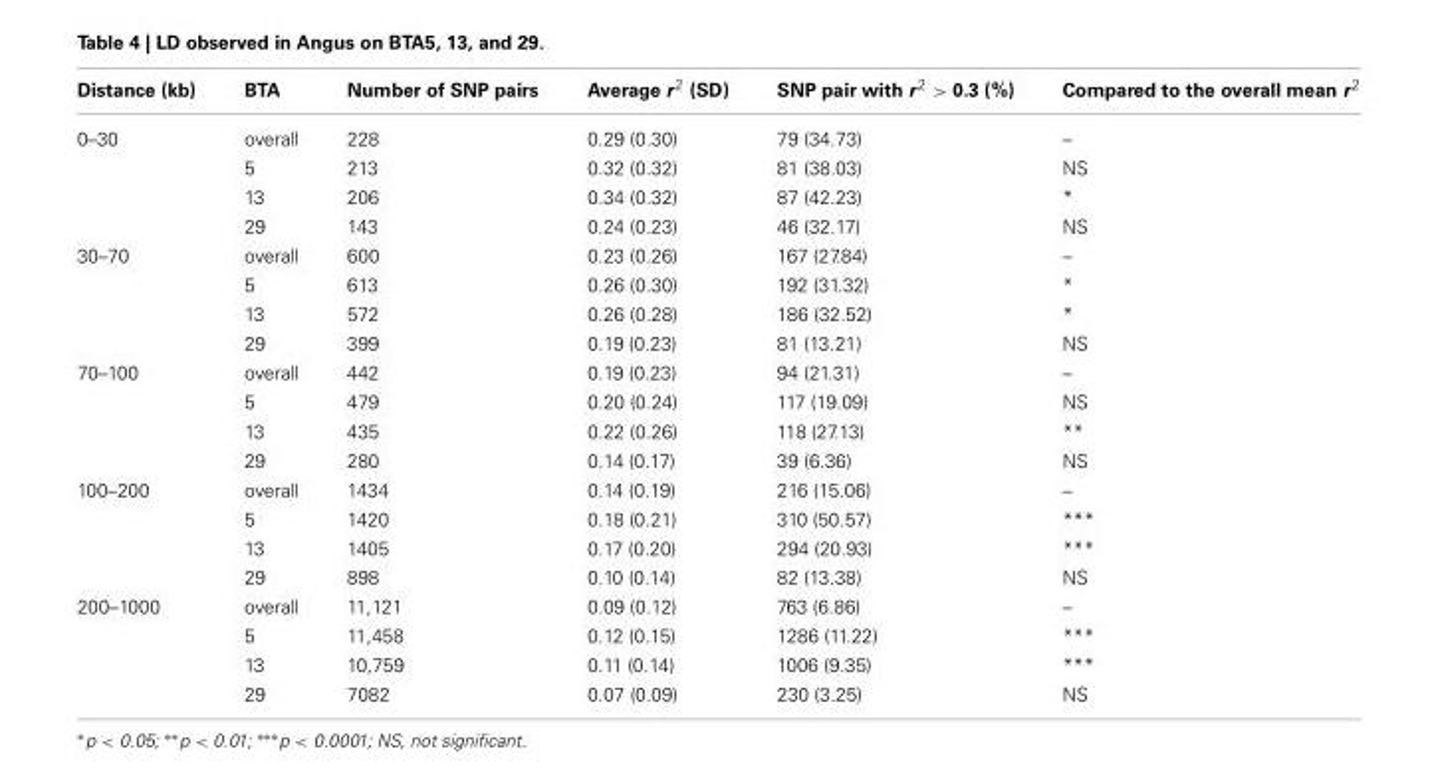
<table><thead><tr><td>Distance (kb)</td><td>BTA</td><td>Number of SNP pairs</td><td>Average r<sup>2</sup> (SD)</td><td>SNP pair with r<sup>2</sup> &gt; 0.3 (%)</td><td>Compared to the overall mean r<sup>2</sup></td></tr></thead><tbody><tr><td rowspan="4">0–30</td><td>overall</td><td>228</td><td>0.29 (0.30)</td><td>79 (34.73)</td><td>–</td></tr><tr><td>5</td><td>213</td><td>0.32 (0.32)</td><td>81 (38.03)</td><td>NS</td></tr><tr><td>13</td><td>206</td><td>0.34 (0.32)</td><td>87 (42.23)</td><td>*</td></tr><tr><td>29</td><td>143</td><td>0.24 (0.23)</td><td>46 (32.17)</td><td>NS</td></tr><tr><td rowspan="4">30–70</td><td>overall</td><td>600</td><td>0.23 (0.26)</td><td>167 (27.84)</td><td>–</td></tr><tr><td>5</td><td>613</td><td>0.26 (0.30)</td><td>192 (31.32)</td><td>*</td></tr><tr><td>13</td><td>572</td><td>0.26 (0.28)</td><td>186 (32.52)</td><td>*</td></tr><tr><td>29</td><td>399</td><td>0.19 (0.23)</td><td>81 (13.21)</td><td>NS</td></tr><tr><td rowspan="4">70–100</td><td>overall</td><td>442</td><td>0.19 (0.23)</td><td>94 (21.31)</td><td>–</td></tr><tr><td>5</td><td>479</td><td>0.20 (0.24)</td><td>117 (19.09)</td><td>NS</td></tr><tr><td>13</td><td>435</td><td>0.22 (0.26)</td><td>118 (27.13)</td><td>**</td></tr><tr><td>29</td><td>280</td><td>0.14 (0.17)</td><td>39 (6.36)</td><td>NS</td></tr><tr><td rowspan="4">100–200</td><td>overall</td><td>1434</td><td>0.14 (0.19)</td><td>216 (15.06)</td><td>–</td></tr><tr><td>5</td><td>1420</td><td>0.18 (0.21)</td><td>310 (50.57)</td><td>***</td></tr><tr><td>13</td><td>1405</td><td>0.17 (0.20)</td><td>294 (20.93)</td><td>***</td></tr><tr><td>29</td><td>898</td><td>0.10 (0.14)</td><td>82 (13.38)</td><td>NS</td></tr><tr><td rowspan="4">200–1000</td><td>overall</td><td>11,121</td><td>0.09 (0.12)</td><td>763 (6.86)</td><td>–</td></tr><tr><td>5</td><td>11,458</td><td>0.12 (0.15)</td><td>1286 (11.22)</td><td>***</td></tr><tr><td>13</td><td>10,759</td><td>0.11 (0.14)</td><td>1006 (9.35)</td><td>***</td></tr><tr><td>29</td><td>7082</td><td>0.07 (0.09)</td><td>230 (3.25)</td><td>NS</td></tr></tbody></table>